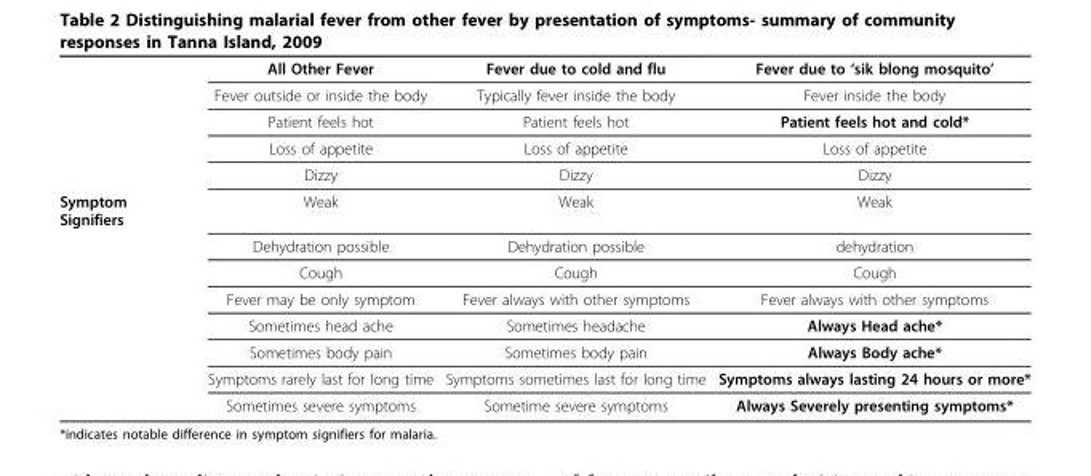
<table><thead><tr><td></td><td>All Other Fever</td><td>Fever due to cold and flu</td><td>Fever due to ‘sik blong mosquito’</td></tr></thead><tbody><tr><td></td><td>Fever outside or inside the body</td><td>Typically fever inside the body</td><td>Fever inside the body</td></tr><tr><td></td><td>Patient feels hot</td><td>Patient feels hot</td><td>Patient feels hot and cold*</td></tr><tr><td></td><td>Loss of appetite</td><td>Loss of appetite</td><td>Loss of appetite</td></tr><tr><td></td><td>Dizzy</td><td>Dizzy</td><td>Dizzy</td></tr><tr><td rowspan="8">Symptom Signifiers</td><td>Weak</td><td>Weak</td><td>Weak</td></tr><tr><td>Dehydration possible</td><td>Dehydration possible</td><td>dehydration</td></tr><tr><td>Cough</td><td>Cough</td><td>Cough</td></tr><tr><td>Fever may be only symptom</td><td>Fever always with other symptoms</td><td>Fever always with other symptoms</td></tr><tr><td>Sometimes head ache</td><td>Sometimes headache</td><td>Always Head ache*</td></tr><tr><td>Sometimes body pain</td><td>Sometimes body pain</td><td>Always Body ache*</td></tr><tr><td>Symptoms rarely last for long time</td><td>Symptoms sometimes last for long time</td><td>Symptoms always lasting 24 hours or more*</td></tr><tr><td>Sometimes severe symptoms</td><td>Sometime severe symptoms</td><td>Always Severely presenting symptoms*</td></tr></tbody></table>